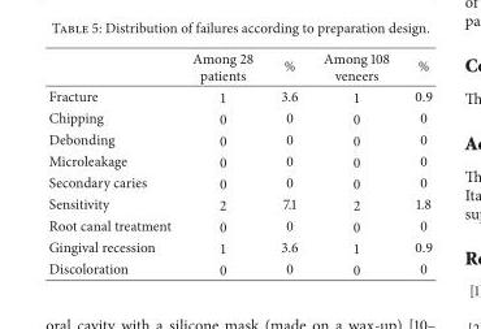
<table><thead><tr><td></td><td>Among 28 patients</td><td>%</td><td>Among 108 veneers</td><td>%</td></tr></thead><tbody><tr><td>Fracture</td><td>1</td><td>3.6</td><td>1</td><td>0.9</td></tr><tr><td>Chipping</td><td>0</td><td>0</td><td>0</td><td>0</td></tr><tr><td>Debonding</td><td>0</td><td>0</td><td>0</td><td>0</td></tr><tr><td>Microleakage</td><td>0</td><td>0</td><td>0</td><td>0</td></tr><tr><td>Secondary caries</td><td>0</td><td>0</td><td>0</td><td>0</td></tr><tr><td>Sensitivity</td><td>2</td><td>7.1</td><td>2</td><td>1.8</td></tr><tr><td>Root canal treatment</td><td>0</td><td>0</td><td>0</td><td>0</td></tr><tr><td>Gingival recession</td><td>1</td><td>3.6</td><td>1</td><td>0.9</td></tr><tr><td>Discoloration</td><td>0</td><td>0</td><td>0</td><td>0</td></tr></tbody></table>